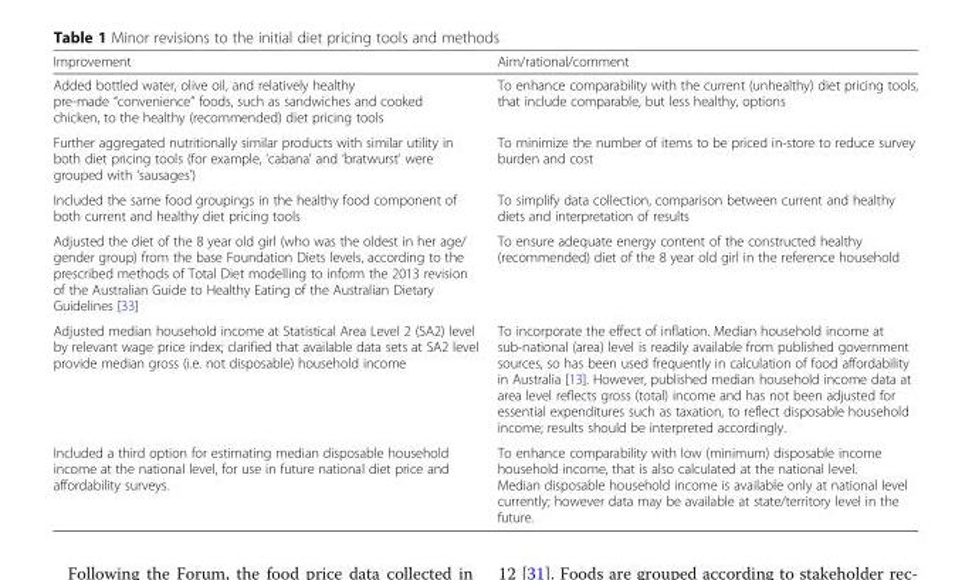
<table><thead><tr><td>Improvement</td><td>Aim/rational/comment</td></tr></thead><tbody><tr><td>Added bottled water, olive oil, and relatively healthy pre-made “convenience” foods, such as sandwiches and cooked chicken, to the healthy (recommended) diet pricing tools</td><td>To enhance comparability with the current (unhealthy) diet pricing tools, that include comparable, but less healthy, options</td></tr><tr><td>Further aggregated nutritionally similar products with similar utility in both diet pricing tools (for example, ‘cabana’ and ‘bratwurst’ were grouped with ‘sausages’)</td><td>To minimize the number of items to be priced in-store to reduce survey burden and cost</td></tr><tr><td>Included the same food groupings in the healthy food component of both current and healthy diet pricing tools</td><td>To simplify data collection, comparison between current and healthy diets and interpretation of results</td></tr><tr><td>Adjusted the diet of the 8 year old girl (who was the oldest in her age/ gender group) from the base Foundation Diets levels, according to the prescribed methods of Total Diet modelling to inform the 2013 revision of the Australian Guide to Healthy Eating of the Australian Dietary Guidelines [33]</td><td>To ensure adequate energy content of the constructed healthy (recommended) diet of the 8 year old girl in the reference household</td></tr><tr><td>Adjusted median household income at Statistical Area Level 2 (SA2) level by relevant wage price index; clarified that available data sets at SA2 level provide median gross (i.e. not disposable) household income</td><td>To incorporate the effect of inflation. Median household income at sub-national (area) level is readily available from published government sources, so has been used frequently in calculation of food affordability in Australia [13]. However, published median household income data at area level reflects gross (total) income and has not been adjusted for essential expenditures such as taxation, to reflect disposable household income; results should be interpreted accordingly.</td></tr><tr><td>Included a third option for estimating median disposable household income at the national level, for use in future national diet price and affordability surveys.</td><td>To enhance comparability with low (minimum) disposable income household income, that is also calculated at the national level. Median disposable household income is available only at national level currently; however data may be available at state/territory level in the future.</td></tr></tbody></table>